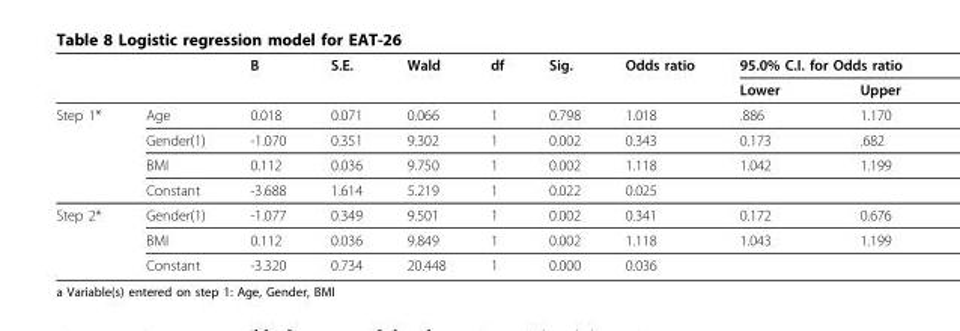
<table><thead><tr><td rowspan="2"></td><td rowspan="2"></td><td rowspan="2">B</td><td rowspan="2">S.E.</td><td rowspan="2">Wald</td><td rowspan="2">df</td><td rowspan="2">Sig.</td><td rowspan="2">Odds ratio</td><td colspan="2">95.0% C.I. for Odds ratio</td></tr><tr><td>Lower</td><td>Upper</td></tr></thead><tbody><tr><td rowspan="4">Step 1*</td><td>Age</td><td>0.018</td><td>0.071</td><td>0.066</td><td>1</td><td>0.798</td><td>1.018</td><td>.886</td><td>1.170</td></tr><tr><td>Gender(1)</td><td>-1.070</td><td>0.351</td><td>9.302</td><td>1</td><td>0.002</td><td>0.343</td><td>0.173</td><td>.682</td></tr><tr><td>BMI</td><td>0.112</td><td>0.036</td><td>9.750</td><td>1</td><td>0.002</td><td>1.118</td><td>1.042</td><td>1.199</td></tr><tr><td>Constant</td><td>-3.688</td><td>1.614</td><td>5.219</td><td>1</td><td>0.022</td><td>0.025</td><td></td><td></td></tr><tr><td rowspan="3">Step 2*</td><td>Gender(1)</td><td>-1.077</td><td>0.349</td><td>9.501</td><td>1</td><td>0.002</td><td>0.341</td><td>0.172</td><td>0.676</td></tr><tr><td>BMI</td><td>0.112</td><td>0.036</td><td>9.849</td><td>1</td><td>0.002</td><td>1.118</td><td>1.043</td><td>1.199</td></tr><tr><td>Constant</td><td>-3.320</td><td>0.734</td><td>20.448</td><td>1</td><td>0.000</td><td>0.036</td><td></td><td></td></tr></tbody></table>